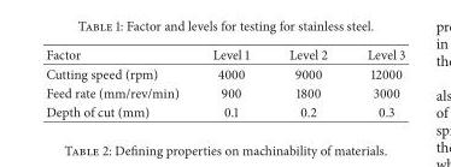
<table><thead><tr><td>Factor</td><td>Level 1</td><td>Level 2</td><td>Level 3</td></tr></thead><tbody><tr><td>Cutting speed (rpm)</td><td>4000</td><td>9000</td><td>12000</td></tr><tr><td>Feed rate (mm/rev/min)</td><td>900</td><td>1800</td><td>3000</td></tr><tr><td>Depth of cut (mm)</td><td>0.1</td><td>0.2</td><td>0.3</td></tr></tbody></table>